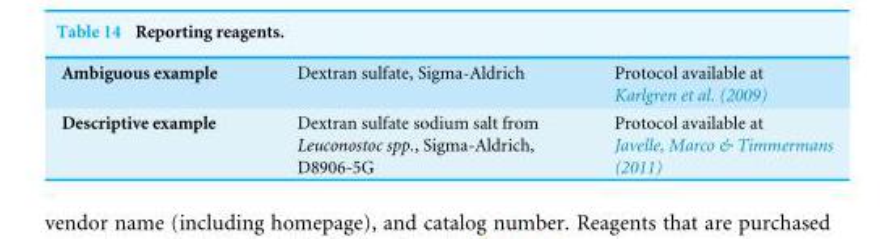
<table><tbody><tr><td>Ambiguous example</td><td>Dextran sulfate, Sigma-Aldrich</td><td>Protocol available at Karlgren et al. (2009)</td></tr><tr><td>Descriptive example</td><td>Dextran sulfate sodium salt from Leuconostoc spp., Sigma-Aldrich, D8906-5G</td><td>Protocol available at Javelle, Marco &amp; Timmermans (2011)</td></tr></tbody></table>